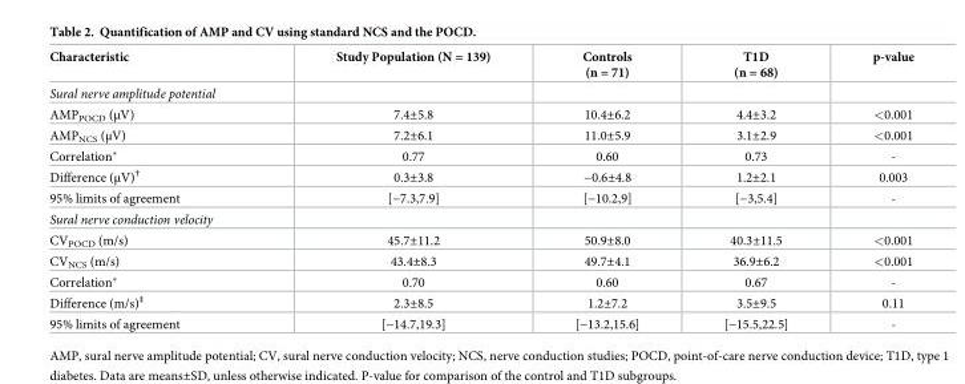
<table><thead><tr><td>Characteristic</td><td>Study Population (N = 139)</td><td>Controls (n = 71)</td><td>T1D (n = 68)</td><td>p-value</td></tr></thead><tbody><tr><td colspan="5">Sural nerve amplitude potential</td></tr><tr><td>AMP<sub>POCD</sub> (μV)</td><td>7.4±5.8</td><td>10.4±6.2</td><td>4.4±3.2</td><td>&lt;0.001</td></tr><tr><td>AMP<sub>NCS</sub> (μV)</td><td>7.2±6.1</td><td>11.0±5.9</td><td>3.1±2.9</td><td>&lt;0.001</td></tr><tr><td>Correlation*</td><td>0.77</td><td>0.60</td><td>0.73</td><td>-</td></tr><tr><td>Difference (μV)<sup>†</sup></td><td>0.3±3.8</td><td>−0.6±4.8</td><td>1.2±2.1</td><td>0.003</td></tr><tr><td>95% limits of agreement</td><td>[−7.3,7.9]</td><td>[−10.2,9]</td><td>[−3,5.4]</td><td>-</td></tr><tr><td colspan="5">Sural nerve conduction velocity</td></tr><tr><td>CV<sub>POCD</sub> (m/s)</td><td>45.7±11.2</td><td>50.9±8.0</td><td>40.3±11.5</td><td>&lt;0.001</td></tr><tr><td>CV<sub>NCS</sub> (m/s)</td><td>43.4±8.3</td><td>49.7±4.1</td><td>36.9±6.2</td><td>&lt;0.001</td></tr><tr><td>Correlation*</td><td>0.70</td><td>0.60</td><td>0.67</td><td>-</td></tr><tr><td>Difference (m/s)<sup>‡</sup></td><td>2.3±8.5</td><td>1.2±7.2</td><td>3.5±9.5</td><td>0.11</td></tr><tr><td>95% limits of agreement</td><td>[−14.7,19.3]</td><td>[−13.2,15.6]</td><td>[−15.5,22.5]</td><td>-</td></tr></tbody></table>